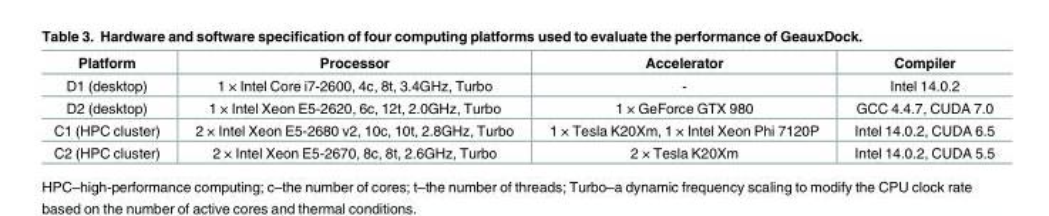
<table><thead><tr><td>Platform</td><td>Processor</td><td>Accelerator</td><td>Compiler</td></tr></thead><tbody><tr><td>D1 (desktop)</td><td>1 × Intel Core i7-2600, 4c, 8t, 3.4GHz, Turbo</td><td>-</td><td>Intel 14.0.2</td></tr><tr><td>D2 (desktop)</td><td>1 × Intel Xeon E5-2620, 6c, 12t, 2.0GHz, Turbo</td><td>1 × GeForce GTX 980</td><td>GCC 4.4.7, CUDA 7.0</td></tr><tr><td>C1 (HPC cluster)</td><td>2 × Intel Xeon E5-2680 v2, 10c, 10t, 2.8GHz, Turbo</td><td>1 × Tesla K20Xm, 1 × Intel Xeon Phi 7120P</td><td>Intel 14.0.2, CUDA 6.5</td></tr><tr><td>C2 (HPC cluster)</td><td>2 × Intel Xeon E5-2670, 8c, 8t, 2.6GHz, Turbo</td><td>2 × Tesla K20Xm</td><td>Intel 14.0.2, CUDA 5.5</td></tr></tbody></table>